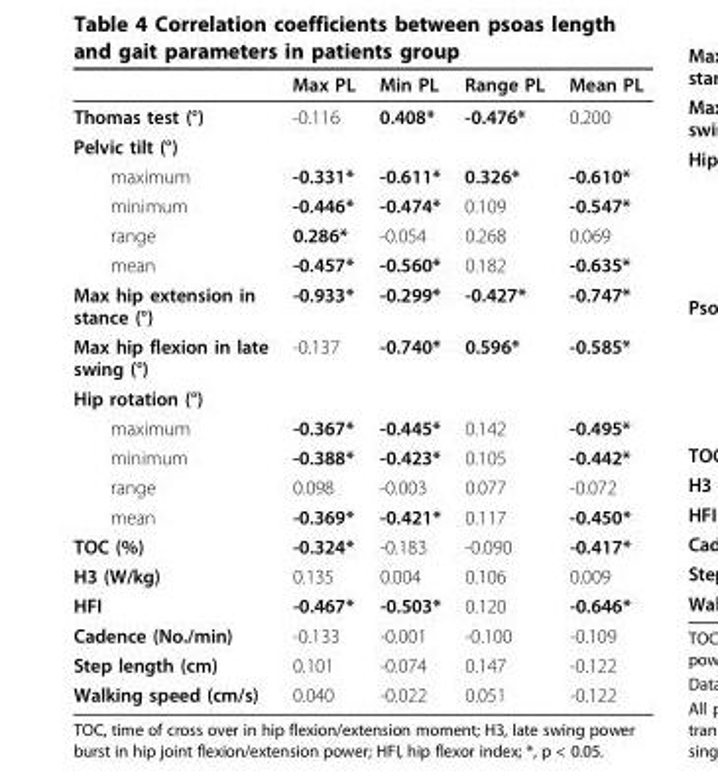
<table><thead><tr><td></td><td>Max PL</td><td>Min PL</td><td>Range PL</td><td>Mean PL</td></tr></thead><tbody><tr><td>Thomas test (°)</td><td>-0.116</td><td>0.408*</td><td>-0.476*</td><td>0.200</td></tr><tr><td colspan="5">Pelvic tilt (°)</td></tr><tr><td>maximum</td><td>-0.331*</td><td>-0.611*</td><td>0.326*</td><td>-0.610*</td></tr><tr><td>minimum</td><td>-0.446*</td><td>-0.474*</td><td>0.109</td><td>-0.547*</td></tr><tr><td>range</td><td>0.286*</td><td>-0.054</td><td>0.268</td><td>0.069</td></tr><tr><td>mean</td><td>-0.457*</td><td>-0.560*</td><td>0.182</td><td>-0.635*</td></tr><tr><td>Max hip extension in stance (°)</td><td>-0.933*</td><td>-0.299*</td><td>-0.427*</td><td>-0.747*</td></tr><tr><td>Max hip flexion in late swing (°)</td><td>-0.137</td><td>-0.740*</td><td>0.596*</td><td>-0.585*</td></tr><tr><td colspan="5">Hip rotation (°)</td></tr><tr><td>maximum</td><td>-0.367*</td><td>-0.445*</td><td>0.142</td><td>-0.495*</td></tr><tr><td>minimum</td><td>-0.388*</td><td>-0.423*</td><td>0.105</td><td>-0.442*</td></tr><tr><td>range</td><td>0.098</td><td>-0.003</td><td>0.077</td><td>-0.072</td></tr><tr><td>mean</td><td>-0.369*</td><td>-0.421*</td><td>0.117</td><td>-0.450*</td></tr><tr><td>TOC (%)</td><td>-0.324*</td><td>-0.183</td><td>-0.090</td><td>-0.417*</td></tr><tr><td>H3 (W/kg)</td><td>0.135</td><td>0.004</td><td>0.106</td><td>0.009</td></tr><tr><td>HFI</td><td>-0.467*</td><td>-0.503*</td><td>0.120</td><td>-0.646*</td></tr><tr><td>Cadence (No./min)</td><td>-0.133</td><td>-0.001</td><td>-0.100</td><td>-0.109</td></tr><tr><td>Step length (cm)</td><td>0.101</td><td>-0.074</td><td>0.147</td><td>-0.122</td></tr><tr><td>Walking speed (cm/s)</td><td>0.040</td><td>-0.022</td><td>0.051</td><td>-0.122</td></tr></tbody></table>